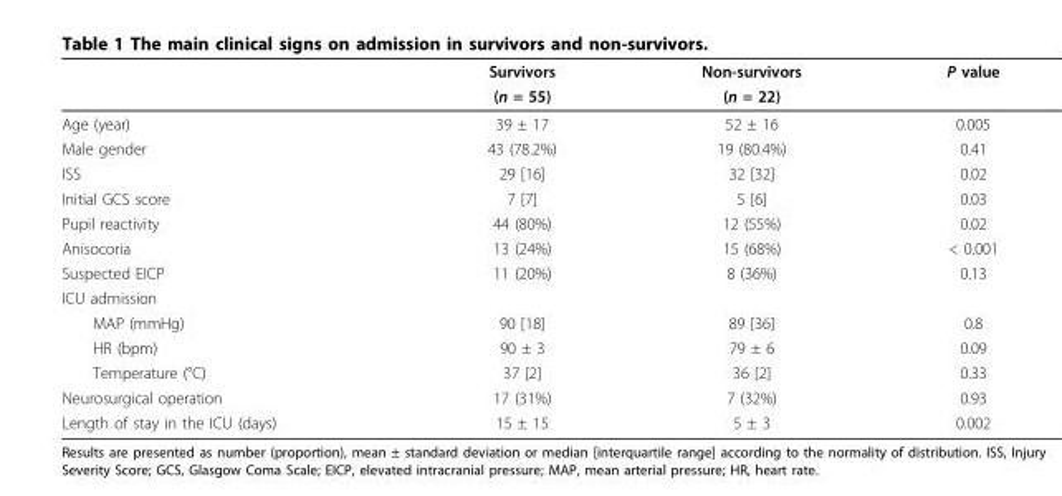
<table><thead><tr><td rowspan="2"></td><td rowspan="2">Survivors (n = 55)</td><td rowspan="2">Non-survivors (n = 22)</td><td rowspan="2">P value</td></tr><tr></tr></thead><tbody><tr><td>Age (year)</td><td>39 ± 17</td><td>52 ± 16</td><td>0.005</td></tr><tr><td>Male gender</td><td>43 (78.2%)</td><td>19 (80.4%)</td><td>0.41</td></tr><tr><td>ISS</td><td>29 [16]</td><td>32 [32]</td><td>0.02</td></tr><tr><td>Initial GCS score</td><td>7 [7]</td><td>5 [6]</td><td>0.03</td></tr><tr><td>Pupil reactivity</td><td>44 (80%)</td><td>12 (55%)</td><td>0.02</td></tr><tr><td>Anisocoria</td><td>13 (24%)</td><td>15 (68%)</td><td>&lt; 0.001</td></tr><tr><td>Suspected EICP</td><td>11 (20%)</td><td>8 (36%)</td><td>0.13</td></tr><tr><td colspan="4">ICU admission</td></tr><tr><td>MAP (mmHg)</td><td>90 [18]</td><td>89 [36]</td><td>0.8</td></tr><tr><td>HR (bpm)</td><td>90 ± 3</td><td>79 ± 6</td><td>0.09</td></tr><tr><td>Temperature (°C)</td><td>37 [2]</td><td>36 [2]</td><td>0.33</td></tr><tr><td>Neurosurgical operation</td><td>17 (31%)</td><td>7 (32%)</td><td>0.93</td></tr><tr><td>Length of stay in the ICU (days)</td><td>15 ± 15</td><td>5 ± 3</td><td>0.002</td></tr></tbody></table>